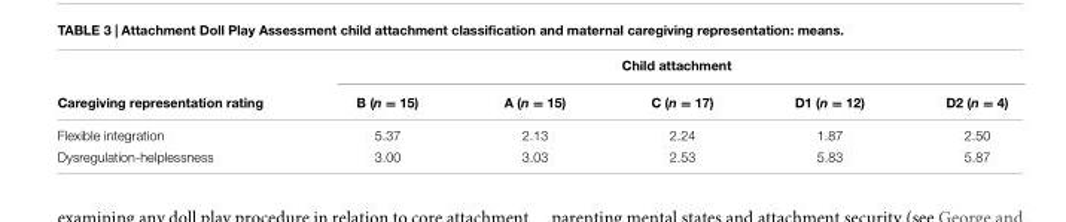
<table><thead><tr><td rowspan="2">Caregiving representation rating</td><td colspan="5">Child attachment</td></tr><tr><td>B (n = 15)</td><td>A (n = 15)</td><td>C (n = 17)</td><td>D1 (n = 12)</td><td>D2 (n = 4)</td></tr></thead><tbody><tr><td>Flexible integration</td><td>5.37</td><td>2.13</td><td>2.24</td><td>1.87</td><td>2.50</td></tr><tr><td>Dysregulation-helplessness</td><td>3.00</td><td>3.03</td><td>2.53</td><td>5.83</td><td>5.87</td></tr></tbody></table>